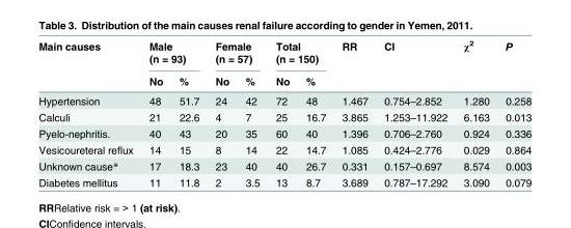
<table><thead><tr><td rowspan="2">Main causes</td><td colspan="2">Male (n = 93)</td><td colspan="2">Female (n = 57)</td><td colspan="2">Total (n = 150)</td><td rowspan="2">RR</td><td rowspan="2">CI</td><td rowspan="2">χ<sup>2</sup></td><td rowspan="2">P</td></tr><tr><td>No</td><td>%</td><td>No</td><td>%</td><td>No</td><td>%</td></tr></thead><tbody><tr><td>Hypertension</td><td>48</td><td>51.7</td><td>24</td><td>42</td><td>72</td><td>48</td><td>1.467</td><td>0.754–2.852</td><td>1.280</td><td>0.258</td></tr><tr><td>Calculi</td><td>21</td><td>22.6</td><td>4</td><td>7</td><td>25</td><td>16.7</td><td>3.865</td><td>1.253–11.922</td><td>6.163</td><td>0.013</td></tr><tr><td>Pyelo-nephritis.</td><td>40</td><td>43</td><td>20</td><td>35</td><td>60</td><td>40</td><td>1.396</td><td>0.706–2.760</td><td>0.924</td><td>0.336</td></tr><tr><td>Vesicoureteral reflux</td><td>14</td><td>15</td><td>8</td><td>14</td><td>22</td><td>14.7</td><td>1.085</td><td>0.424–2.776</td><td>0.029</td><td>0.864</td></tr><tr><td>Unknown cause*</td><td>17</td><td>18.3</td><td>23</td><td>40</td><td>40</td><td>26.7</td><td>0.331</td><td>0.157–0.697</td><td>8.574</td><td>0.003</td></tr><tr><td>Diabetes mellitus</td><td>11</td><td>11.8</td><td>2</td><td>3.5</td><td>13</td><td>8.7</td><td>3.689</td><td>0.787–17.292</td><td>3.090</td><td>0.079</td></tr></tbody></table>